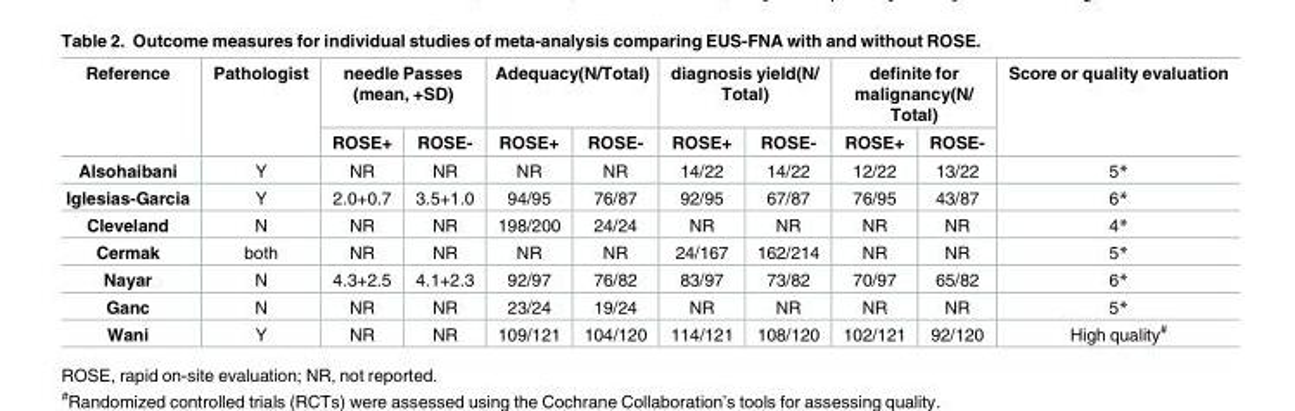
<table><thead><tr><td rowspan="2">Reference</td><td rowspan="2">Pathologist</td><td colspan="2">needle Passes (mean, +SD)</td><td colspan="2">Adequacy(N/Total)</td><td colspan="2">diagnosis yield(N/ Total)</td><td colspan="2">definite for malignancy(N/ Total)</td><td rowspan="2">Score or quality evaluation</td></tr><tr><td>ROSE+</td><td>ROSE-</td><td>ROSE+</td><td>ROSE-</td><td>ROSE+</td><td>ROSE-</td><td>ROSE+</td><td>ROSE-</td></tr></thead><tbody><tr><td>Alsohaibani</td><td>Y</td><td>NR</td><td>NR</td><td>NR</td><td>NR</td><td>14/22</td><td>14/22</td><td>12/22</td><td>13/22</td><td>5*</td></tr><tr><td>Iglesias-Garcia</td><td>Y</td><td>2.0+0.7</td><td>3.5+1.0</td><td>94/95</td><td>76/87</td><td>92/95</td><td>67/87</td><td>76/95</td><td>43/87</td><td>6*</td></tr><tr><td>Cleveland</td><td>N</td><td>NR</td><td>NR</td><td>198/200</td><td>24/24</td><td>NR</td><td>NR</td><td>NR</td><td>NR</td><td>4*</td></tr><tr><td>Cermak</td><td>both</td><td>NR</td><td>NR</td><td>NR</td><td>NR</td><td>24/167</td><td>162/214</td><td>NR</td><td>NR</td><td>5*</td></tr><tr><td>Nayar</td><td>N</td><td>4.3+2.5</td><td>4.1+2.3</td><td>92/97</td><td>76/82</td><td>83/97</td><td>73/82</td><td>70/97</td><td>65/82</td><td>6*</td></tr><tr><td>Ganc</td><td>N</td><td>NR</td><td>NR</td><td>23/24</td><td>19/24</td><td>NR</td><td>NR</td><td>NR</td><td>NR</td><td>5*</td></tr><tr><td>Wani</td><td>Y</td><td>NR</td><td>NR</td><td>109/121</td><td>104/120</td><td>114/121</td><td>108/120</td><td>102/121</td><td>92/120</td><td>High quality<sup>#</sup></td></tr></tbody></table>